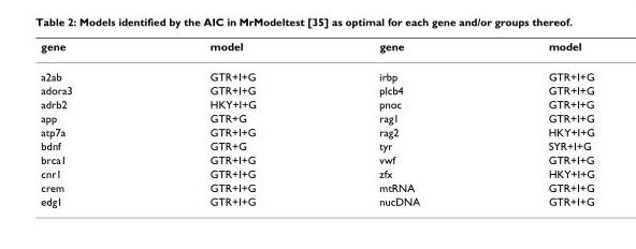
<table><thead><tr><td>gene</td><td>model</td><td>gene</td><td>model</td></tr></thead><tbody><tr><td>a2ab</td><td>GTR+I+G</td><td>irbp</td><td>GTR+I+G</td></tr><tr><td>adora3</td><td>GTR+I+G</td><td>plcb4</td><td>GTR+I+G</td></tr><tr><td>adrb2</td><td>HKY+I+G</td><td>pnoc</td><td>GTR+I+G</td></tr><tr><td>app</td><td>GTR+G</td><td>rag1</td><td>GTR+I+G</td></tr><tr><td>atp7a</td><td>GTR+I+G</td><td>rag2</td><td>HKY+I+G</td></tr><tr><td>bdnf</td><td>GTR+G</td><td>tyr</td><td>SYR+I+G</td></tr><tr><td>brca1</td><td>GTR+I+G</td><td>vwf</td><td>GTR+I+G</td></tr><tr><td>cnr1</td><td>GTR+I+G</td><td>zfx</td><td>HKY+I+G</td></tr><tr><td>crem</td><td>GTR+I+G</td><td>mtRNA</td><td>GTR+I+G</td></tr><tr><td>edg1</td><td>GTR+I+G</td><td>nucDNA</td><td>GTR+I+G</td></tr></tbody></table>